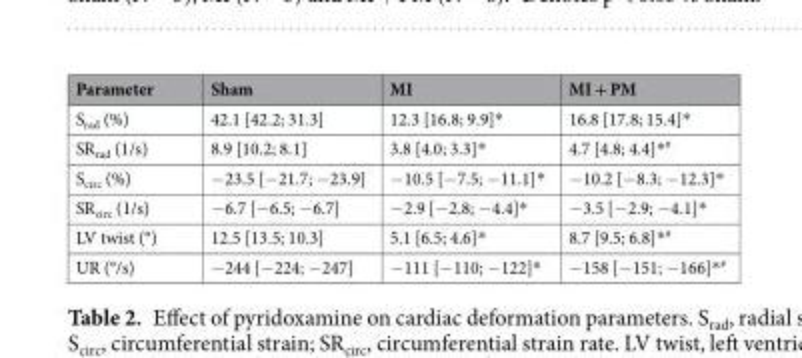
<table><thead><tr><td>Parameter</td><td>Sham</td><td>MI</td><td>MI + PM</td></tr></thead><tbody><tr><td>S<sub>rad</sub> (%)</td><td>42.1 [42.2; 31.3]</td><td>12.3 [16.8; 9.9]*</td><td>16.8 [17.8; 15.4]*</td></tr><tr><td>SR<sub>rad</sub> (1/s)</td><td>8.9 [10.2; 8.1]</td><td>3.8 [4.0; 3.3]*</td><td>4.7 [4.8; 4.4]*<sup>#</sup></td></tr><tr><td>S<sub>circ</sub> (%)</td><td>−23.5 [−21.7; −23.9]</td><td>−10.5 [−7.5; −11.1]*</td><td>−10.2 [−8.3; −12.3]*</td></tr><tr><td>SR<sub>circ</sub> (1/s)</td><td>−6.7 [−6.5; −6.7]</td><td>−2.9 [−2.8; −4.4]*</td><td>−3.5 [−2.9; −4.1]*</td></tr><tr><td>LV twist (°)</td><td>12.5 [13.5; 10.3]</td><td>5.1 [6.5; 4.6]*</td><td>8.7 [9.5; 6.8]*<sup>#</sup></td></tr><tr><td>UR (°/s)</td><td>−244 [−224; −247]</td><td>−111 [−110; −122]*</td><td>−158 [−151; −166]*<sup>#</sup></td></tr></tbody></table>